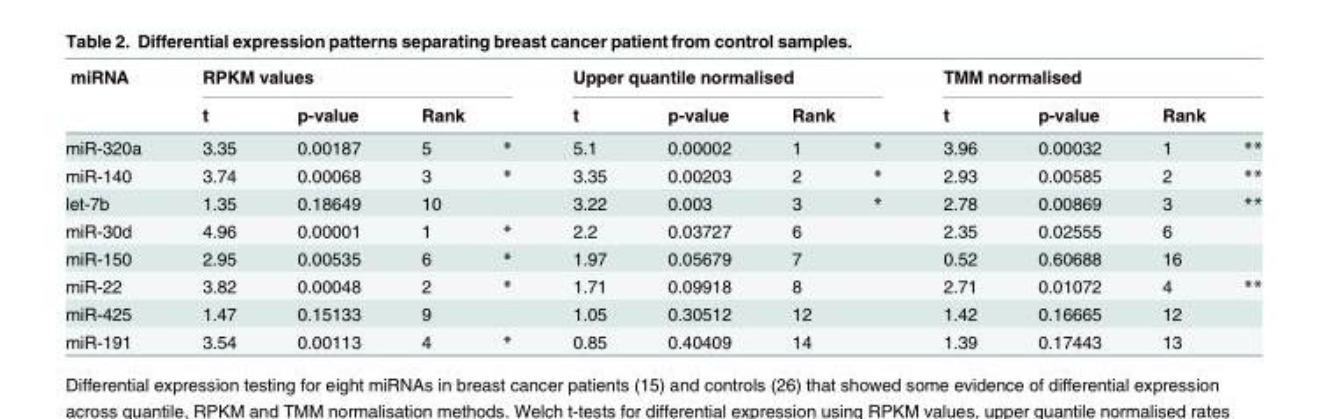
<table><thead><tr><td rowspan="3">miRNA miR-320a</td><td colspan="4">RPKM values</td><td colspan="4">Upper quantile normalised</td><td colspan="4">TMM normalised</td></tr><tr><td rowspan="2">t 3.35</td><td rowspan="2">p-value 0.00187</td><td colspan="2">Rank</td><td rowspan="2">t 5.1</td><td rowspan="2">p-value 0.00002</td><td colspan="2">Rank</td><td rowspan="2">t 3.96</td><td rowspan="2">p-value 0.00032</td><td colspan="2">Rank</td></tr><tr><td>5</td><td>*</td><td>1</td><td>*</td><td>1</td><td>**</td></tr></thead><tbody><tr><td>miR-140</td><td>3.74</td><td>0.00068</td><td>3</td><td>*</td><td>3.35</td><td>0.00203</td><td>2</td><td>*</td><td>2.93</td><td>0.00585</td><td>2</td><td>**</td></tr><tr><td>let-7b</td><td>1.35</td><td>0.18649</td><td>10</td><td></td><td>3.22</td><td>0.003</td><td>3</td><td>*</td><td>2.78</td><td>0.00869</td><td>3</td><td>**</td></tr><tr><td>miR-30d</td><td>4.96</td><td>0.00001</td><td>1</td><td>*</td><td>2.2</td><td>0.03727</td><td>6</td><td></td><td>2.35</td><td>0.02555</td><td>6</td><td></td></tr><tr><td>miR-150</td><td>2.95</td><td>0.00535</td><td>6</td><td>*</td><td>1.97</td><td>0.05679</td><td>7</td><td></td><td>0.52</td><td>0.60688</td><td>16</td><td></td></tr><tr><td>miR-22</td><td>3.82</td><td>0.00048</td><td>2</td><td>*</td><td>1.71</td><td>0.09918</td><td>8</td><td></td><td>2.71</td><td>0.01072</td><td>4</td><td>**</td></tr><tr><td>miR-425</td><td>1.47</td><td>0.15133</td><td>9</td><td></td><td>1.05</td><td>0.30512</td><td>12</td><td></td><td>1.42</td><td>0.16665</td><td>12</td><td></td></tr><tr><td>miR-191</td><td>3.54</td><td>0.00113</td><td>4</td><td>*</td><td>0.85</td><td>0.40409</td><td>14</td><td></td><td>1.39</td><td>0.17443</td><td>13</td><td></td></tr></tbody></table>